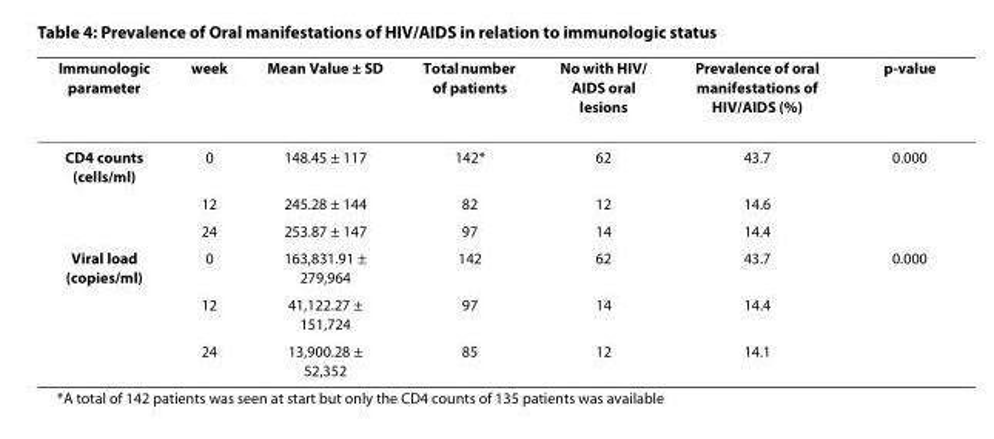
<table><thead><tr><td>Immunologic parameter</td><td>week</td><td>Mean Value ± SD</td><td>Total number of patients</td><td>No with HIV/ AIDS oral lesions</td><td>Prevalence of oral manifestations of HIV/AIDS (%)</td><td>p-value</td></tr></thead><tbody><tr><td rowspan="3">CD4 counts (cells/ml)</td><td>0</td><td>148.45 ± 117</td><td>142*</td><td>62</td><td>43.7</td><td>0.000</td></tr><tr><td>12</td><td>245.28 ± 144</td><td>82</td><td>12</td><td>14.6</td><td></td></tr><tr><td>24</td><td>253.87 ± 147</td><td>97</td><td>14</td><td>14.4</td><td></td></tr><tr><td rowspan="3">Viral load (copies/ml)</td><td>0</td><td>163,831.91 ± 279,964</td><td>142</td><td>62</td><td>43.7</td><td>0.000</td></tr><tr><td>12</td><td>41,122.27 ± 151,724</td><td>97</td><td>14</td><td>14.4</td><td></td></tr><tr><td>24</td><td>13,900.28 ± 52,352</td><td>85</td><td>12</td><td>14.1</td><td></td></tr></tbody></table>